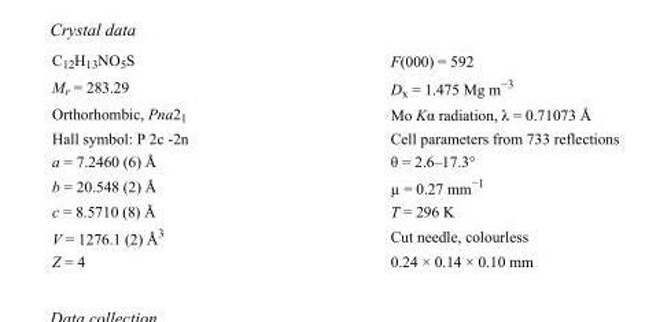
<table><tbody><tr><td>C<sub>12</sub>H<sub>13</sub>NO<sub>5</sub>S</td><td>F(000) = 592</td></tr><tr><td>M<sub>r</sub> = 283.29</td><td>D<sub>x</sub> = 1.475 Mg m<sup>−3</sup></td></tr><tr><td>Orthorhombic, Pna2<sub>1</sub></td><td>Mo Kα radiation, λ = 0.71073 Å</td></tr><tr><td>Hall symbol: P 2c -2n</td><td>Cell parameters from 733 reflections</td></tr><tr><td>a = 7.2460 (6) Å</td><td>θ = 2.6–17.3°</td></tr><tr><td>b = 20.548 (2) Å</td><td>µ = 0.27 mm<sup>−1</sup></td></tr><tr><td>c = 8.5710 (8) Å</td><td>T = 296 K</td></tr><tr><td>V = 1276.1 (2) Å<sup>3</sup></td><td>Cut needle, colourless</td></tr><tr><td>Z = 4</td><td>0.24 × 0.14 × 0.10 mm</td></tr></tbody></table>